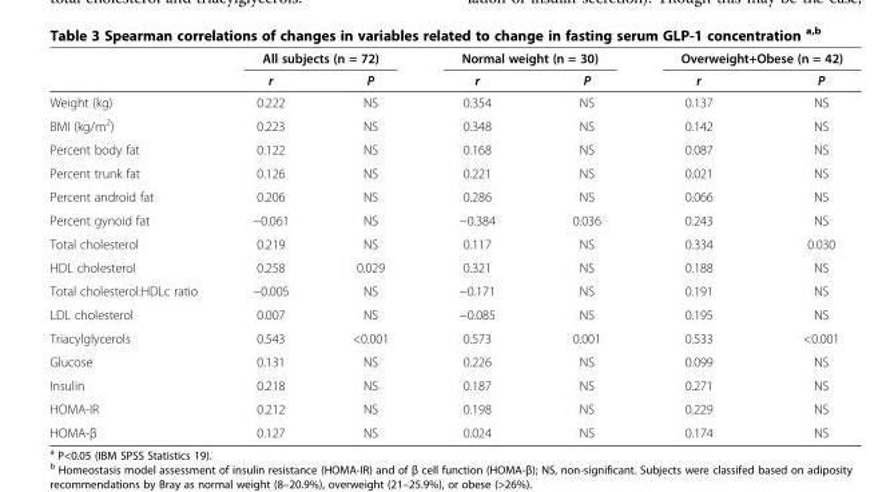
<table><thead><tr><td rowspan="2"></td><td colspan="2">All subjects (n = 72)</td><td colspan="2">Normal weight (n = 30)</td><td colspan="2">Overweight+Obese (n = 42)</td></tr><tr><td>r</td><td>P</td><td>r</td><td>P</td><td>r</td><td>P</td></tr></thead><tbody><tr><td>Weight (kg)</td><td>0.222</td><td>NS</td><td>0.354</td><td>NS</td><td>0.137</td><td>NS</td></tr><tr><td>BMI (kg/m<sup>2</sup>)</td><td>0.223</td><td>NS</td><td>0.348</td><td>NS</td><td>0.142</td><td>NS</td></tr><tr><td>Percent body fat</td><td>0.122</td><td>NS</td><td>0.168</td><td>NS</td><td>0.087</td><td>NS</td></tr><tr><td>Percent trunk fat</td><td>0.126</td><td>NS</td><td>0.221</td><td>NS</td><td>0.021</td><td>NS</td></tr><tr><td>Percent android fat</td><td>0.206</td><td>NS</td><td>0.286</td><td>NS</td><td>0.066</td><td>NS</td></tr><tr><td>Percent gynoid fat</td><td>−0.061</td><td>NS</td><td>−0.384</td><td>0.036</td><td>0.243</td><td>NS</td></tr><tr><td>Total cholesterol</td><td>0.219</td><td>NS</td><td>0.117</td><td>NS</td><td>0.334</td><td>0.030</td></tr><tr><td>HDL cholesterol</td><td>0.258</td><td>0.029</td><td>0.321</td><td>NS</td><td>0.188</td><td>NS</td></tr><tr><td>Total cholesterol:HDLc ratio</td><td>−0.005</td><td>NS</td><td>−0.171</td><td>NS</td><td>0.191</td><td>NS</td></tr><tr><td>LDL cholesterol</td><td>0.007</td><td>NS</td><td>−0.085</td><td>NS</td><td>0.195</td><td>NS</td></tr><tr><td>Triacylglycerols</td><td>0.543</td><td>&lt;0.001</td><td>0.573</td><td>0.001</td><td>0.533</td><td>&lt;0.001</td></tr><tr><td>Glucose</td><td>0.131</td><td>NS</td><td>0.226</td><td>NS</td><td>0.099</td><td>NS</td></tr><tr><td>Insulin</td><td>0.218</td><td>NS</td><td>0.187</td><td>NS</td><td>0.271</td><td>NS</td></tr><tr><td>HOMA-IR</td><td>0.212</td><td>NS</td><td>0.198</td><td>NS</td><td>0.229</td><td>NS</td></tr><tr><td>HOMA-β</td><td>0.127</td><td>NS</td><td>0.024</td><td>NS</td><td>0.174</td><td>NS</td></tr></tbody></table>